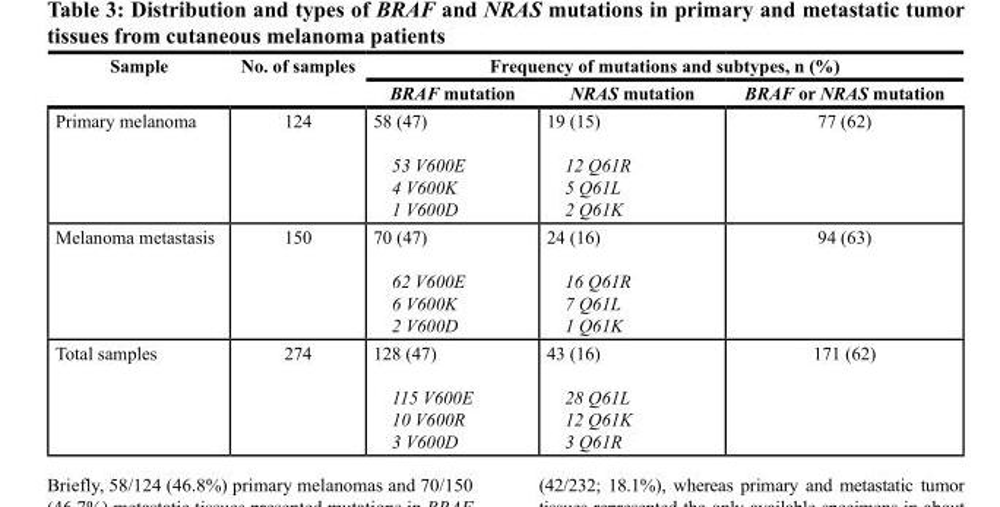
<table><thead><tr><td rowspan="2">Sample</td><td rowspan="2">No. of samples</td><td colspan="3">Frequency of mutations and subtypes, n (%)</td></tr><tr><td>BRAF mutation</td><td>NRAS mutation</td><td>BRAF or NRAS mutation</td></tr></thead><tbody><tr><td>Primary melanoma</td><td>124</td><td>58 (47) 53 V600E 4 V600K 1 V600D</td><td>19 (15) 12 Q61R 5 Q61L 2 Q61K</td><td>77 (62)</td></tr><tr><td>Melanoma metastasis</td><td>150</td><td>70 (47) 62 V600E 6 V600K 2 V600D</td><td>24 (16) 16 Q61R 7 Q61L 1 Q61K</td><td>94 (63)</td></tr><tr><td>Total samples</td><td>274</td><td>128 (47) 115 V600E 10 V600R 3 V600D</td><td>43 (16) 28 Q61L 12 Q61K 3 Q61R</td><td>171 (62)</td></tr></tbody></table>